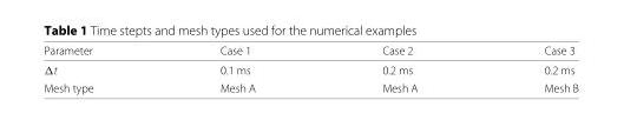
<table><thead><tr><td>Parameter</td><td>Case 1</td><td>Case 2</td><td>Case 3</td></tr></thead><tbody><tr><td>Δt</td><td>0.1 ms</td><td>0.2 ms</td><td>0.2 ms</td></tr><tr><td>Mesh type</td><td>Mesh A</td><td>Mesh A</td><td>Mesh B</td></tr></tbody></table>